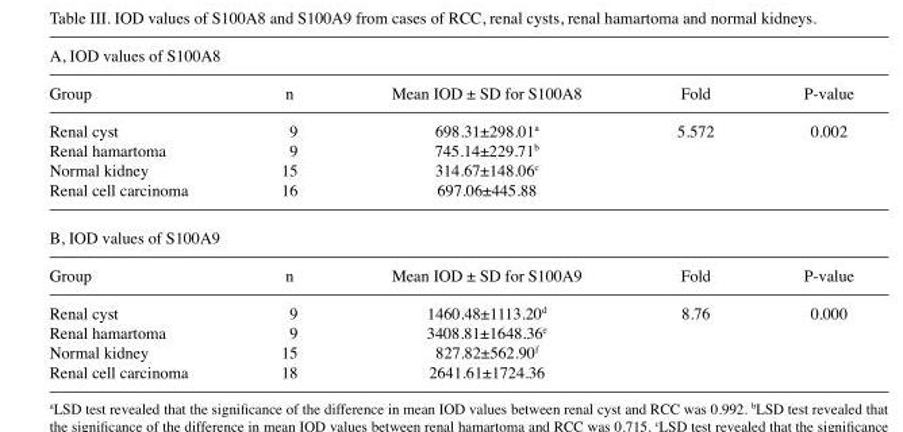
<table><thead><tr><td colspan="5">A, IOD values of S100A8</td></tr><tr><td>Group</td><td>n</td><td>Mean IOD ± SD for S100A8</td><td>Fold</td><td>P-value</td></tr></thead><tbody><tr><td>Renal cyst</td><td>9</td><td>698.31±298.01<sup>a</sup></td><td>5.572</td><td>0.002</td></tr><tr><td>Renal hamartoma</td><td>9</td><td>745.14±229.71<sup>b</sup></td><td></td><td></td></tr><tr><td>Normal kidney</td><td>15</td><td>314.67±148.06<sup>c</sup></td><td></td><td></td></tr><tr><td>Renal cell carcinoma</td><td>16</td><td>697.06±445.88</td><td></td><td></td></tr><tr><td colspan="5">B, IOD values of S100A9</td></tr><tr><td>Group</td><td>n</td><td>Mean IOD ± SD for S100A9</td><td>Fold</td><td>P-value</td></tr><tr><td>Renal cyst</td><td>9</td><td>1460.48±1113.20<sup>d</sup></td><td>8.76</td><td>0.000</td></tr><tr><td>Renal hamartoma</td><td>9</td><td>3408.81±1648.36<sup>e</sup></td><td></td><td></td></tr><tr><td>Normal kidney</td><td>15</td><td>827.82±562.90<sup>f</sup></td><td></td><td></td></tr><tr><td>Renal cell carcinoma</td><td>18</td><td>2641.61±1724.36</td><td></td><td></td></tr></tbody></table>